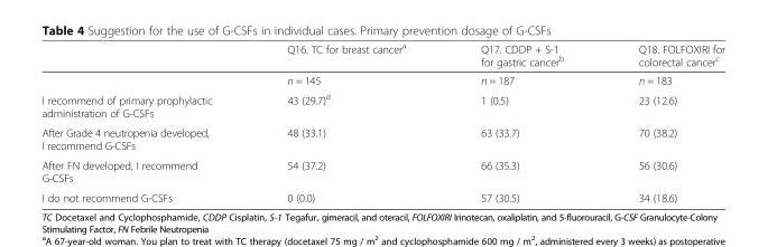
<table><thead><tr><td></td><td>Q16. TC for breast cancer<sup>a</sup></td><td>Q17. CDDP + S-1 for gastric cancer<sup>b</sup></td><td>Q18. FOLFOXIRI for colorectal cancer<sup>c</sup></td></tr></thead><tbody><tr><td></td><td>n = 145</td><td>n = 187</td><td>n = 183</td></tr><tr><td>I recommend of primary prophylactic administration of G-CSFs</td><td>43 (29.7)<sup>d</sup></td><td>1 (0.5)</td><td>23 (12.6)</td></tr><tr><td>After Grade 4 neutropenia developed, I recommend G-CSFs</td><td>48 (33.1)</td><td>63 (33.7)</td><td>70 (38.2)</td></tr><tr><td>After FN developed, I recommend G-CSFs</td><td>54 (37.2)</td><td>66 (35.3)</td><td>56 (30.6)</td></tr><tr><td>I do not recommend G-CSFs</td><td>0 (0.0)</td><td>57 (30.5)</td><td>34 (18.6)</td></tr></tbody></table>